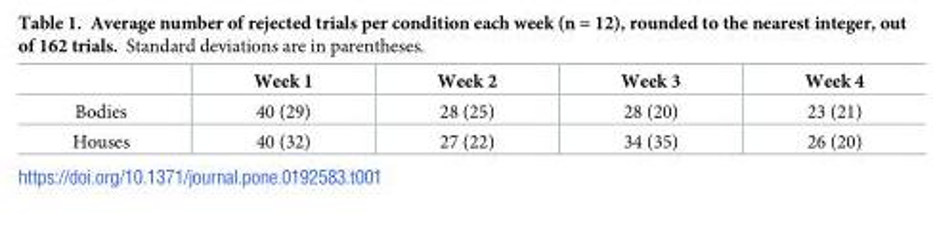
<table><thead><tr><td></td><td>Week 1</td><td>Week 2</td><td>Week 3</td><td>Week 4</td></tr></thead><tbody><tr><td>Bodies</td><td>40 (29)</td><td>28 (25)</td><td>28 (20)</td><td>23 (21)</td></tr><tr><td>Houses</td><td>40 (32)</td><td>27 (22)</td><td>34 (35)</td><td>26 (20)</td></tr></tbody></table>